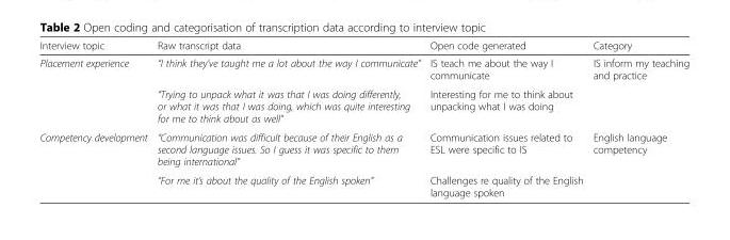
<table><thead><tr><td>Interview topic</td><td>Raw transcript data</td><td>Open code generated</td><td>Category</td></tr></thead><tbody><tr><td rowspan="2">Placement experience</td><td>“I think they’ve taught me a lot about the way I communicate”</td><td>IS teach me about the way I communicate</td><td rowspan="2">IS inform my teaching and practice</td></tr><tr><td>“Trying to unpack what it was that I was doing differently, or what it was that I was doing, which was quite interesting for me to think about as well”</td><td>Interesting for me to think about unpacking what I was doing</td></tr><tr><td rowspan="2">Competency development</td><td>“Communication was difficult because of their English as a second language issues. So I guess it was specific to them being international”</td><td>Communication issues related to ESL were specific to IS</td><td rowspan="2">English language competency</td></tr><tr><td>“For me it’s about the quality of the English spoken”</td><td>Challenges re quality of the English language spoken</td></tr></tbody></table>